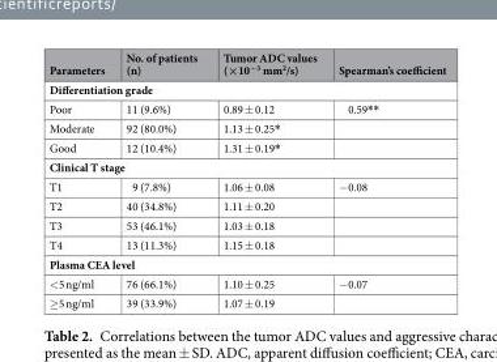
<table><thead><tr><td>Parameters</td><td>No. of patients (n)</td><td>Tumor ADC values (×10<sup>−3</sup> mm<sup>2</sup>/s)</td><td>Spearman’s coefficient</td></tr></thead><tbody><tr><td colspan="4">Differentiation grade</td></tr><tr><td>Poor</td><td>11 (9.6%)</td><td>0.89 ± 0.12</td><td>0.59**</td></tr><tr><td>Moderate</td><td>92 (80.0%)</td><td>1.13 ± 0.25*</td><td></td></tr><tr><td>Good</td><td>12 (10.4%)</td><td>1.31 ± 0.19*</td><td></td></tr><tr><td colspan="4">Clinical T stage</td></tr><tr><td>T1</td><td>9 (7.8%)</td><td>1.06 ± 0.08</td><td>−0.08</td></tr><tr><td>T2</td><td>40 (34.8%)</td><td>1.11 ± 0.20</td><td></td></tr><tr><td>T3</td><td>53 (46.1%)</td><td>1.03 ± 0.18</td><td></td></tr><tr><td>T4</td><td>13 (11.3%)</td><td>1.15 ± 0.18</td><td></td></tr><tr><td colspan="4">Plasma CEA level</td></tr><tr><td>&lt;5 ng/ml</td><td>76 (66.1%)</td><td>1.10 ± 0.25</td><td>−0.07</td></tr><tr><td>≥5 ng/ml</td><td>39 (33.9%)</td><td>1.07 ± 0.19</td><td></td></tr></tbody></table>